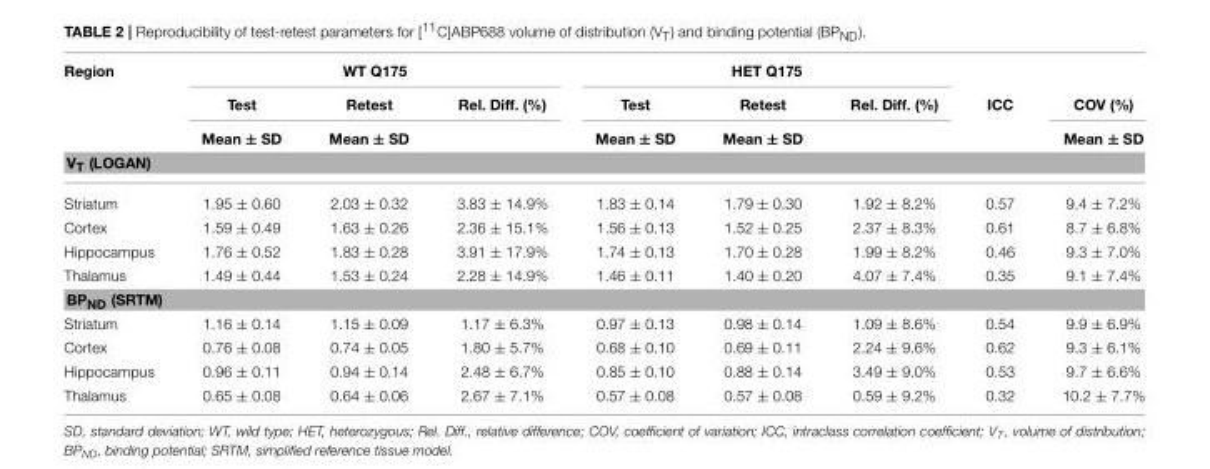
<table><thead><tr><td rowspan="3">Region</td><td colspan="3">WT Q175</td><td colspan="3">HET Q175</td><td rowspan="3">ICC</td><td rowspan="3">COV (%) Mean ± SD</td></tr><tr><td rowspan="2">Test Mean ± SD</td><td rowspan="2">Retest Mean ± SD</td><td rowspan="2">Rel. Diff. (%)</td><td rowspan="2">Test Mean ± SD</td><td rowspan="2">Retest Mean ± SD</td><td rowspan="2">Rel. Diff. (%)</td></tr><tr></tr><tr><td colspan="9">V<sub>T</sub> (LOGAN)</td></tr></thead><tbody><tr><td>Striatum</td><td>1.95 ± 0.60</td><td>2.03 ± 0.32</td><td>3.83 ± 14.9%</td><td>1.83 ± 0.14</td><td>1.79 ± 0.30</td><td>1.92 ± 8.2%</td><td>0.57</td><td>9.4 ± 7.2%</td></tr><tr><td>Cortex</td><td>1.59 ± 0.49</td><td>1.63 ± 0.26</td><td>2.36 ± 15.1%</td><td>1.56 ± 0.13</td><td>1.52 ± 0.25</td><td>2.37 ± 8.3%</td><td>0.61</td><td>8.7 ± 6.8%</td></tr><tr><td>Hippocampus</td><td>1.76 ± 0.52</td><td>1.83 ± 0.28</td><td>3.91 ± 17.9%</td><td>1.74 ± 0.13</td><td>1.70 ± 0.28</td><td>1.99 ± 8.2%</td><td>0.46</td><td>9.3 ± 7.0%</td></tr><tr><td>Thalamus</td><td>1.49 ± 0.44</td><td>1.53 ± 0.24</td><td>2.28 ± 14.9%</td><td>1.46 ± 0.11</td><td>1.40 ± 0.20</td><td>4.07 ± 7.4%</td><td>0.35</td><td>9.1 ± 7.4%</td></tr><tr><td colspan="9">BP<sub>ND</sub> (SRTM)</td></tr><tr><td>Striatum</td><td>1.16 ± 0.14</td><td>1.15 ± 0.09</td><td>1.17 ± 6.3%</td><td>0.97 ± 0.13</td><td>0.98 ± 0.14</td><td>1.09 ± 8.6%</td><td>0.54</td><td>9.9 ± 6.9%</td></tr><tr><td>Cortex</td><td>0.76 ± 0.08</td><td>0.74 ± 0.05</td><td>1.80 ± 5.7%</td><td>0.68 ± 0.10</td><td>0.69 ± 0.11</td><td>2.24 ± 9.6%</td><td>0.62</td><td>9.3 ± 6.1%</td></tr><tr><td>Hippocampus</td><td>0.96 ± 0.11</td><td>0.94 ± 0.14</td><td>2.48 ± 6.7%</td><td>0.85 ± 0.10</td><td>0.88 ± 0.14</td><td>3.49 ± 9.0%</td><td>0.53</td><td>9.7 ± 6.6%</td></tr><tr><td>Thalamus</td><td>0.65 ± 0.08</td><td>0.64 ± 0.06</td><td>2.67 ± 7.1%</td><td>0.57 ± 0.08</td><td>0.57 ± 0.08</td><td>0.59 ± 9.2%</td><td>0.32</td><td>10.2 ± 7.7%</td></tr></tbody></table>